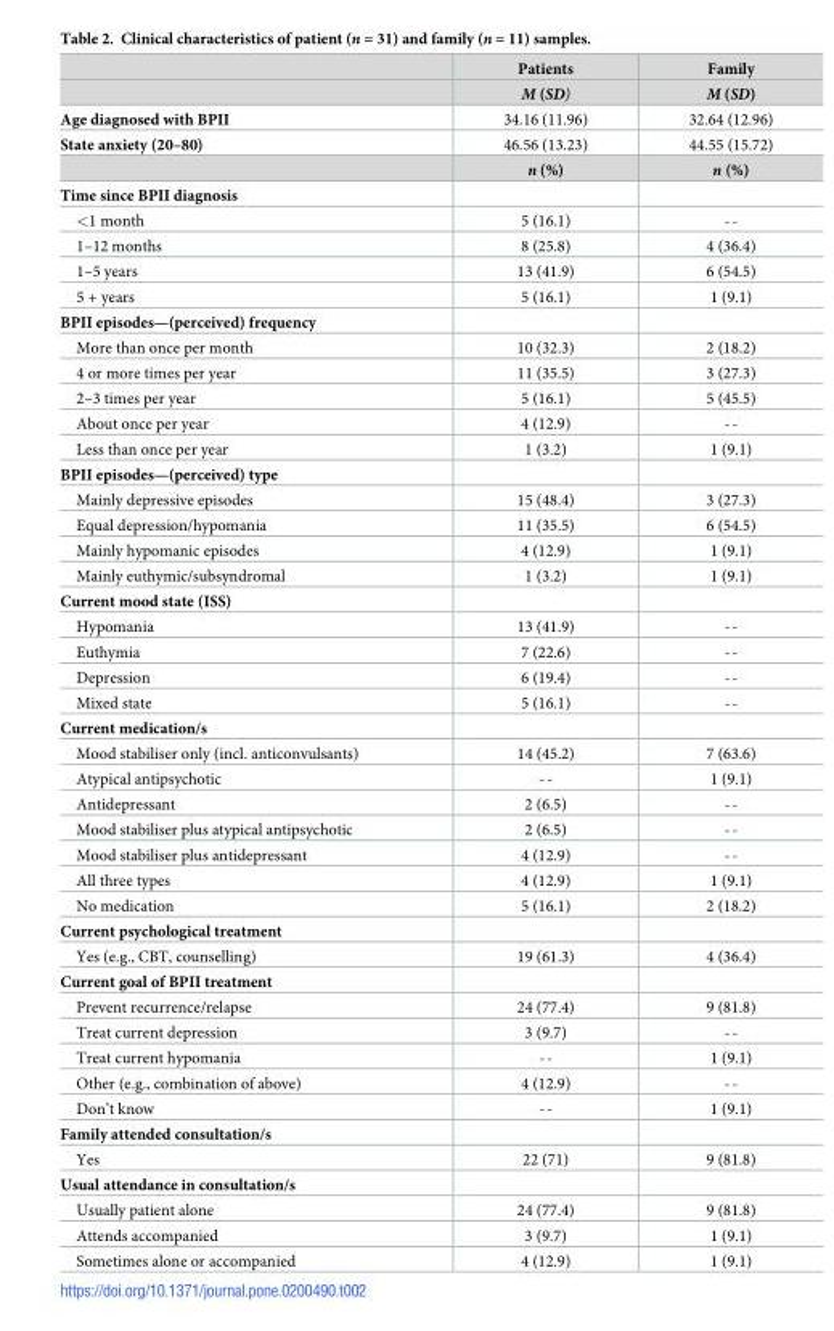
<table><thead><tr><td></td><td>Patients</td><td>Family</td></tr></thead><tbody><tr><td></td><td>M (SD)</td><td>M (SD)</td></tr><tr><td>Age diagnosed with BPII</td><td>34.16 (11.96)</td><td>32.64 (12.96)</td></tr><tr><td rowspan="2">State anxiety (20–80)</td><td>46.56 (13.23)</td><td>44.55 (15.72)</td></tr><tr><td>n (%)</td><td>n (%)</td></tr><tr><td colspan="3">Time since BPII diagnosis</td></tr><tr><td>&lt;1 month</td><td>5 (16.1)</td><td>--</td></tr><tr><td>1–12 months</td><td>8 (25.8)</td><td>4 (36.4)</td></tr><tr><td>1–5 years</td><td>13 (41.9)</td><td>6 (54.5)</td></tr><tr><td>5 + years</td><td>5 (16.1)</td><td>1 (9.1)</td></tr><tr><td colspan="3">BPII episodes—(perceived) frequency</td></tr><tr><td>More than once per month</td><td>10 (32.3)</td><td>2 (18.2)</td></tr><tr><td>4 or more times per year</td><td>11 (35.5)</td><td>3 (27.3)</td></tr><tr><td>2–3 times per year</td><td>5 (16.1)</td><td>5 (45.5)</td></tr><tr><td>About once per year</td><td>4 (12.9)</td><td>--</td></tr><tr><td>Less than once per year</td><td>1 (3.2)</td><td>1 (9.1)</td></tr><tr><td colspan="3">BPII episodes—(perceived) type</td></tr><tr><td>Mainly depressive episodes</td><td>15 (48.4)</td><td>3 (27.3)</td></tr><tr><td>Equal depression/hypomania</td><td>11 (35.5)</td><td>6 (54.5)</td></tr><tr><td>Mainly hypomanic episodes</td><td>4 (12.9)</td><td>1 (9.1)</td></tr><tr><td>Mainly euthymic/subsyndromal</td><td>1 (3.2)</td><td>1 (9.1)</td></tr><tr><td colspan="3">Current mood state (ISS)</td></tr><tr><td>Hypomania</td><td>13 (41.9)</td><td>--</td></tr><tr><td>Euthymia</td><td>7 (22.6)</td><td>--</td></tr><tr><td>Depression</td><td>6 (19.4)</td><td>--</td></tr><tr><td>Mixed state</td><td>5 (16.1)</td><td>--</td></tr><tr><td colspan="3">Current medication/s</td></tr><tr><td>Mood stabiliser only (incl. anticonvulsants)</td><td>14 (45.2)</td><td>7 (63.6)</td></tr><tr><td>Atypical antipsychotic</td><td>--</td><td>1 (9.1)</td></tr><tr><td>Antidepressant</td><td>2 (6.5)</td><td>--</td></tr><tr><td>Mood stabiliser plus atypical antipsychotic</td><td>2 (6.5)</td><td>--</td></tr><tr><td>Mood stabiliser plus antidepressant</td><td>4 (12.9)</td><td>--</td></tr><tr><td>All three types</td><td>4 (12.9)</td><td>1 (9.1)</td></tr><tr><td>No medication</td><td>5 (16.1)</td><td>2 (18.2)</td></tr><tr><td colspan="3">Current psychological treatment</td></tr><tr><td>Yes (e.g., CBT, counselling)</td><td>19 (61.3)</td><td>4 (36.4)</td></tr><tr><td colspan="3">Current goal of BPII treatment</td></tr><tr><td>Prevent recurrence/relapse</td><td>24 (77.4)</td><td>9 (81.8)</td></tr><tr><td>Treat current depression</td><td>3 (9.7)</td><td>--</td></tr><tr><td>Treat current hypomania</td><td>--</td><td>1 (9.1)</td></tr><tr><td>Other (e.g., combination of above)</td><td>4 (12.9)</td><td>--</td></tr><tr><td>Don’t know</td><td>--</td><td>1 (9.1)</td></tr><tr><td colspan="3">Family attended consultation/s</td></tr><tr><td>Yes</td><td>22 (71)</td><td>9 (81.8)</td></tr><tr><td colspan="3">Usual attendance in consultation/s</td></tr><tr><td>Usually patient alone</td><td>24 (77.4)</td><td>9 (81.8)</td></tr><tr><td>Attends accompanied</td><td>3 (9.7)</td><td>1 (9.1)</td></tr><tr><td>Sometimes alone or accompanied</td><td>4 (12.9)</td><td>1 (9.1)</td></tr></tbody></table>